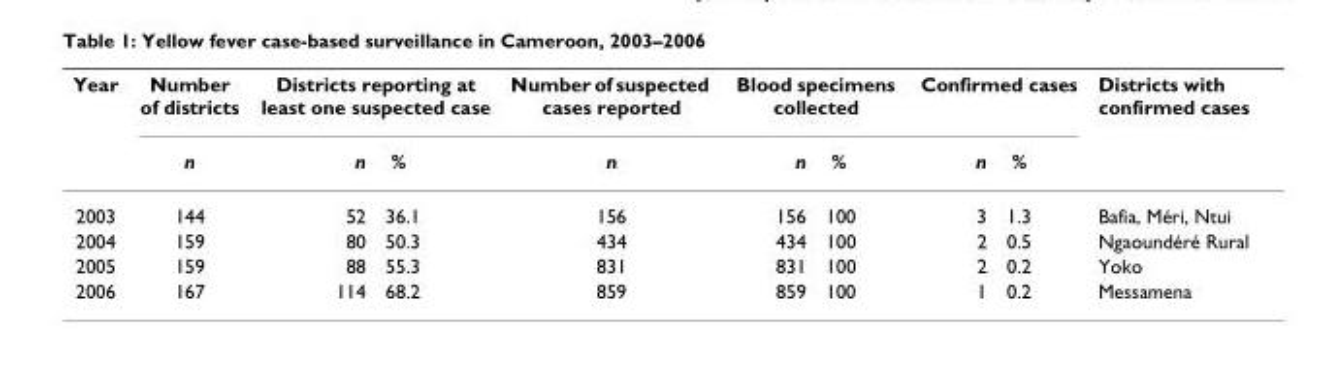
<table><thead><tr><td rowspan="2">Year</td><td rowspan="2">Number of districts n</td><td colspan="2">Districts reporting at least one suspected case</td><td rowspan="2">Number of suspected cases reported n</td><td colspan="2">Blood specimens collected</td><td colspan="2">Confirmed cases</td><td rowspan="2">Districts with confirmed cases</td></tr><tr><td>n</td><td>%</td><td>n</td><td>%</td><td>n</td><td>%</td></tr></thead><tbody><tr><td>2003</td><td>144</td><td>52</td><td>36.1</td><td>156</td><td>156</td><td>100</td><td>3</td><td>1.3</td><td>Bafia, Méri, Ntui</td></tr><tr><td>2004</td><td>159</td><td>80</td><td>50.3</td><td>434</td><td>434</td><td>100</td><td>2</td><td>0.5</td><td>Ngaoundéré Rural</td></tr><tr><td>2005</td><td>159</td><td>88</td><td>55.3</td><td>831</td><td>831</td><td>100</td><td>2</td><td>0.2</td><td>Yoko</td></tr><tr><td>2006</td><td>167</td><td>114</td><td>68.2</td><td>859</td><td>859</td><td>100</td><td>1</td><td>0.2</td><td>Messamena</td></tr></tbody></table>